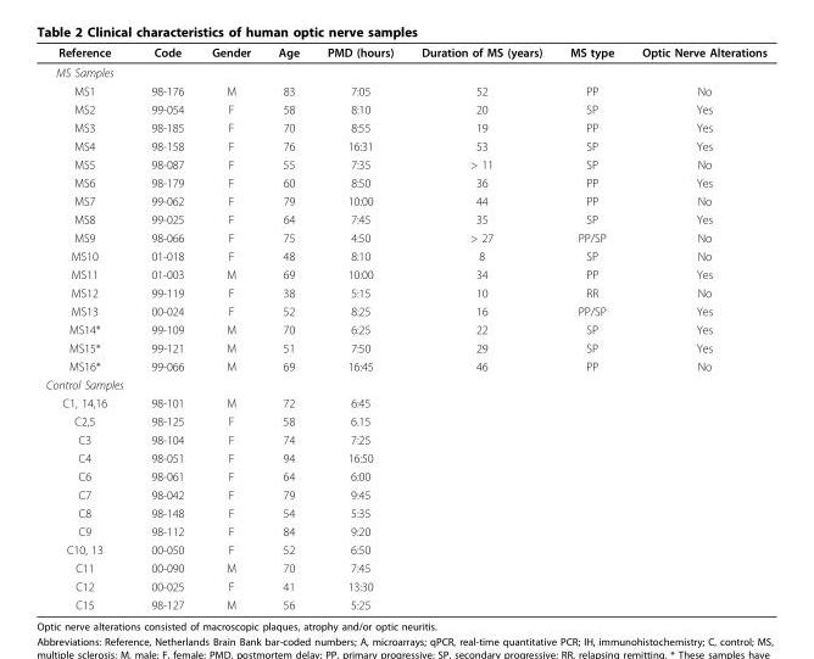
<table><thead><tr><td>Reference</td><td>Code</td><td>Gender</td><td>Age</td><td>PMD (hours)</td><td>Duration of MS (years)</td><td>MS type</td><td>Optic Nerve Alterations</td></tr></thead><tbody><tr><td colspan="8">MS Samples</td></tr><tr><td>MS1</td><td>98-176</td><td>M</td><td>83</td><td>7:05</td><td>52</td><td>PP</td><td>No</td></tr><tr><td>MS2</td><td>99-054</td><td>F</td><td>58</td><td>8:10</td><td>20</td><td>SP</td><td>Yes</td></tr><tr><td>MS3</td><td>98-185</td><td>F</td><td>70</td><td>8:55</td><td>19</td><td>PP</td><td>Yes</td></tr><tr><td>MS4</td><td>98-158</td><td>F</td><td>76</td><td>16:31</td><td>53</td><td>SP</td><td>Yes</td></tr><tr><td>MS5</td><td>98-087</td><td>F</td><td>55</td><td>7:35</td><td>&gt; 11</td><td>SP</td><td>No</td></tr><tr><td>MS6</td><td>98-179</td><td>F</td><td>60</td><td>8:50</td><td>36</td><td>PP</td><td>Yes</td></tr><tr><td>MS7</td><td>99-062</td><td>F</td><td>79</td><td>10:00</td><td>44</td><td>PP</td><td>No</td></tr><tr><td>MS8</td><td>99-025</td><td>F</td><td>64</td><td>7:45</td><td>35</td><td>SP</td><td>Yes</td></tr><tr><td>MS9</td><td>98-066</td><td>F</td><td>75</td><td>4:50</td><td>&gt; 27</td><td>PP/SP</td><td>No</td></tr><tr><td>MS10</td><td>01-018</td><td>F</td><td>48</td><td>8:10</td><td>8</td><td>SP</td><td>No</td></tr><tr><td>MS11</td><td>01-003</td><td>M</td><td>69</td><td>10:00</td><td>34</td><td>PP</td><td>Yes</td></tr><tr><td>MS12</td><td>99-119</td><td>F</td><td>38</td><td>5:15</td><td>10</td><td>RR</td><td>No</td></tr><tr><td>MS13</td><td>00-024</td><td>F</td><td>52</td><td>8:25</td><td>16</td><td>PP/SP</td><td>Yes</td></tr><tr><td>MS14*</td><td>99-109</td><td>M</td><td>70</td><td>6:25</td><td>22</td><td>SP</td><td>Yes</td></tr><tr><td>MS15*</td><td>99-121</td><td>M</td><td>51</td><td>7:50</td><td>29</td><td>SP</td><td>Yes</td></tr><tr><td>MS16*</td><td>99-066</td><td>M</td><td>69</td><td>16:45</td><td>46</td><td>PP</td><td>No</td></tr><tr><td colspan="8">Control Samples</td></tr><tr><td>C1, 14,16</td><td>98-101</td><td>M</td><td>72</td><td>6:45</td><td></td><td></td><td></td></tr><tr><td>C2,5</td><td>98-125</td><td>F</td><td>58</td><td>6.15</td><td></td><td></td><td></td></tr><tr><td>C3</td><td>98-104</td><td>F</td><td>74</td><td>7:25</td><td></td><td></td><td></td></tr><tr><td>C4</td><td>98-051</td><td>F</td><td>94</td><td>16:50</td><td></td><td></td><td></td></tr><tr><td>C6</td><td>98-061</td><td>F</td><td>64</td><td>6:00</td><td></td><td></td><td></td></tr><tr><td>C7</td><td>98-042</td><td>F</td><td>79</td><td>9:45</td><td></td><td></td><td></td></tr><tr><td>C8</td><td>98-148</td><td>F</td><td>54</td><td>5:35</td><td></td><td></td><td></td></tr><tr><td>C9</td><td>98-112</td><td>F</td><td>84</td><td>9:20</td><td></td><td></td><td></td></tr><tr><td>C10, 13</td><td>00-050</td><td>F</td><td>52</td><td>6:50</td><td></td><td></td><td></td></tr><tr><td>C11</td><td>00-090</td><td>M</td><td>70</td><td>7:45</td><td></td><td></td><td></td></tr><tr><td>C12</td><td>00-025</td><td>F</td><td>41</td><td>13:30</td><td></td><td></td><td></td></tr><tr><td>C15</td><td>98-127</td><td>M</td><td>56</td><td>5:25</td><td></td><td></td><td></td></tr></tbody></table>